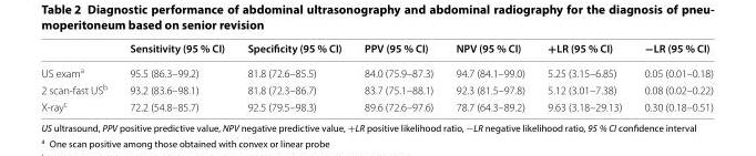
<table><thead><tr><td></td><td>Sensitivity (95 % CI)</td><td>Specificity (95 % CI)</td><td>PPV (95 % CI)</td><td>NPV (95 % CI)</td><td>+LR (95 % CI)</td><td>−LR (95 % CI)</td></tr></thead><tbody><tr><td>US exam<sup>a</sup></td><td>95.5 (86.3–99.2)</td><td>81.8 (72.6–85.5)</td><td>84.0 (75.9–87.3)</td><td>94.7 (84.1–99.0)</td><td>5.25 (3.15–6.85)</td><td>0.05 (0.01–0.18)</td></tr><tr><td>2 scan-fast US<sup>b</sup></td><td>93.2 (83.6–98.1)</td><td>81.8 (72.3–86.7)</td><td>83.7 (75.1–88.1)</td><td>92.3 (81.5–97.8)</td><td>5.12 (3.01–7.38)</td><td>0.08 (0.02–0.22)</td></tr><tr><td>X-ray<sup>c</sup></td><td>72.2 (54.8–85.7)</td><td>92.5 (79.5–98.3)</td><td>89.6 (72.6–97.6)</td><td>78.7 (64.3–89.2)</td><td>9.63 (3.18–29.13)</td><td>0.30 (0.18–0.51)</td></tr></tbody></table>